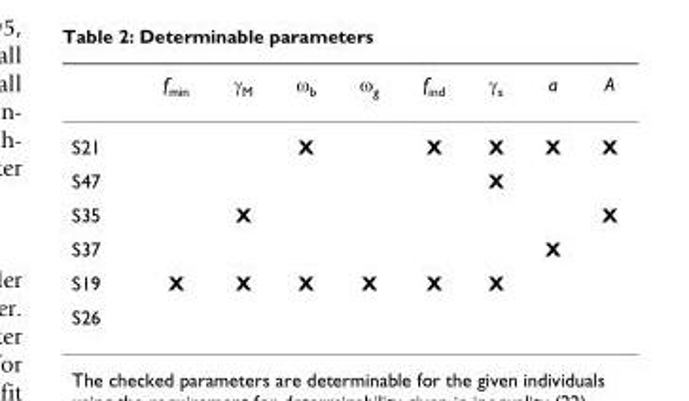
<table><thead><tr><td></td><td>f<sub>min</sub></td><td>γ<sub>M</sub></td><td>ω<sub>b</sub></td><td>ω<sub>g</sub></td><td>f<sub>ind</sub></td><td>γ<sub>s</sub></td><td>a</td><td>A</td></tr></thead><tbody><tr><td>S21</td><td></td><td></td><td>X</td><td></td><td>X</td><td>X</td><td>X</td><td>X</td></tr><tr><td>S47</td><td></td><td></td><td></td><td></td><td></td><td>X</td><td></td><td></td></tr><tr><td>S35</td><td></td><td>X</td><td></td><td></td><td></td><td></td><td></td><td>X</td></tr><tr><td>S37</td><td></td><td></td><td></td><td></td><td></td><td></td><td>X</td><td></td></tr><tr><td>S19</td><td>X</td><td>X</td><td>X</td><td>X</td><td>X</td><td>X</td><td></td><td></td></tr><tr><td>S26</td><td></td><td></td><td></td><td></td><td></td><td></td><td></td><td></td></tr></tbody></table>